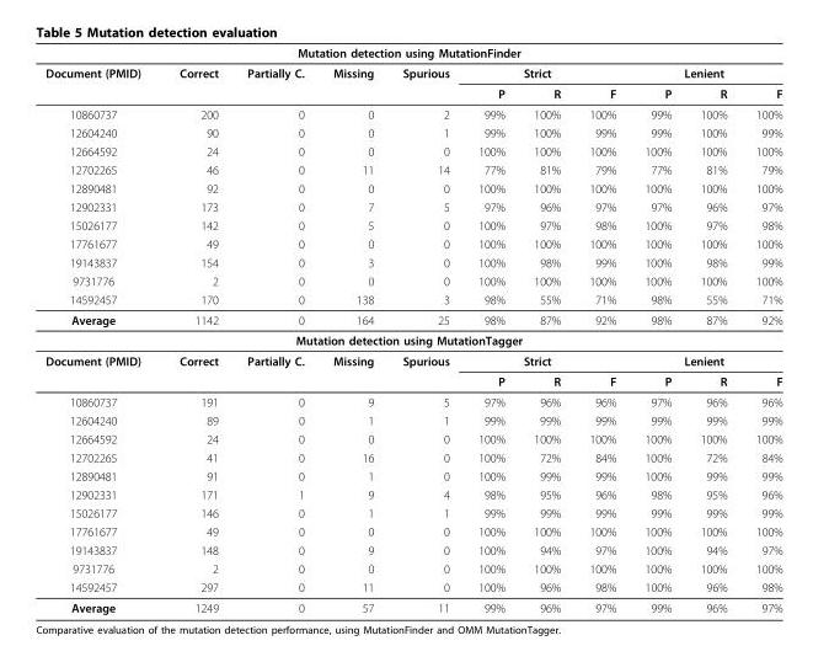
<table><thead><tr><td colspan="11">Mutation detection using MutationFinder</td></tr><tr><td rowspan="2">Document (PMID)</td><td rowspan="2">Correct</td><td rowspan="2">Partially C.</td><td rowspan="2">Missing</td><td rowspan="2">Spurious</td><td colspan="3">Strict</td><td colspan="3">Lenient</td></tr><tr><td>P</td><td>R</td><td>F</td><td>P</td><td>R</td><td>F</td></tr></thead><tbody><tr><td>10860737</td><td>200</td><td>0</td><td>0</td><td>2</td><td>99%</td><td>100%</td><td>100%</td><td>99%</td><td>100%</td><td>100%</td></tr><tr><td>12604240</td><td>90</td><td>0</td><td>0</td><td>1</td><td>99%</td><td>100%</td><td>99%</td><td>99%</td><td>100%</td><td>99%</td></tr><tr><td>12664592</td><td>24</td><td>0</td><td>0</td><td>0</td><td>100%</td><td>100%</td><td>100%</td><td>100%</td><td>100%</td><td>100%</td></tr><tr><td>12702265</td><td>46</td><td>0</td><td>11</td><td>14</td><td>77%</td><td>81%</td><td>79%</td><td>77%</td><td>81%</td><td>79%</td></tr><tr><td>12890481</td><td>92</td><td>0</td><td>0</td><td>0</td><td>100%</td><td>100%</td><td>100%</td><td>100%</td><td>100%</td><td>100%</td></tr><tr><td>12902331</td><td>173</td><td>0</td><td>7</td><td>5</td><td>97%</td><td>96%</td><td>97%</td><td>97%</td><td>96%</td><td>97%</td></tr><tr><td>15026177</td><td>142</td><td>0</td><td>5</td><td>0</td><td>100%</td><td>97%</td><td>98%</td><td>100%</td><td>97%</td><td>98%</td></tr><tr><td>17761677</td><td>49</td><td>0</td><td>0</td><td>0</td><td>100%</td><td>100%</td><td>100%</td><td>100%</td><td>100%</td><td>100%</td></tr><tr><td>19143837</td><td>154</td><td>0</td><td>3</td><td>0</td><td>100%</td><td>98%</td><td>99%</td><td>100%</td><td>98%</td><td>99%</td></tr><tr><td>9731776</td><td>2</td><td>0</td><td>0</td><td>0</td><td>100%</td><td>100%</td><td>100%</td><td>100%</td><td>100%</td><td>100%</td></tr><tr><td>14592457</td><td>170</td><td>0</td><td>138</td><td>3</td><td>98%</td><td>55%</td><td>71%</td><td>98%</td><td>55%</td><td>71%</td></tr><tr><td>Average</td><td>1142</td><td>0</td><td>164</td><td>25</td><td>98%</td><td>87%</td><td>92%</td><td>98%</td><td>87%</td><td>92%</td></tr><tr><td colspan="11">Mutation detection using MutationTagger</td></tr><tr><td rowspan="2">Document (PMID)</td><td>Correct</td><td>Partially C.</td><td>Missing</td><td>Spurious</td><td colspan="3">Strict</td><td colspan="3">Lenient</td></tr><tr><td></td><td></td><td></td><td></td><td>P</td><td>R</td><td>F</td><td>P</td><td>R</td><td>F</td></tr><tr><td>10860737</td><td>191</td><td>0</td><td>9</td><td>5</td><td>97%</td><td>96%</td><td>96%</td><td>97%</td><td>96%</td><td>96%</td></tr><tr><td>12604240</td><td>89</td><td>0</td><td>1</td><td>1</td><td>99%</td><td>99%</td><td>99%</td><td>99%</td><td>99%</td><td>99%</td></tr><tr><td>12664592</td><td>24</td><td>0</td><td>0</td><td>0</td><td>100%</td><td>100%</td><td>100%</td><td>100%</td><td>100%</td><td>100%</td></tr><tr><td>12702265</td><td>41</td><td>0</td><td>16</td><td>0</td><td>100%</td><td>72%</td><td>84%</td><td>100%</td><td>72%</td><td>84%</td></tr><tr><td>12890481</td><td>91</td><td>0</td><td>1</td><td>0</td><td>100%</td><td>99%</td><td>99%</td><td>100%</td><td>99%</td><td>99%</td></tr><tr><td>12902331</td><td>171</td><td>1</td><td>9</td><td>4</td><td>98%</td><td>95%</td><td>96%</td><td>98%</td><td>95%</td><td>96%</td></tr><tr><td>15026177</td><td>146</td><td>0</td><td>1</td><td>1</td><td>99%</td><td>99%</td><td>99%</td><td>99%</td><td>99%</td><td>99%</td></tr><tr><td>17761677</td><td>49</td><td>0</td><td>0</td><td>0</td><td>100%</td><td>100%</td><td>100%</td><td>100%</td><td>100%</td><td>100%</td></tr><tr><td>19143837</td><td>148</td><td>0</td><td>9</td><td>0</td><td>100%</td><td>94%</td><td>97%</td><td>100%</td><td>94%</td><td>97%</td></tr><tr><td>9731776</td><td>2</td><td>0</td><td>0</td><td>0</td><td>100%</td><td>100%</td><td>100%</td><td>100%</td><td>100%</td><td>100%</td></tr><tr><td>14592457</td><td>297</td><td>0</td><td>11</td><td>0</td><td>100%</td><td>96%</td><td>98%</td><td>100%</td><td>96%</td><td>98%</td></tr><tr><td>Average</td><td>1249</td><td>0</td><td>57</td><td>11</td><td>99%</td><td>96%</td><td>97%</td><td>99%</td><td>96%</td><td>97%</td></tr></tbody></table>